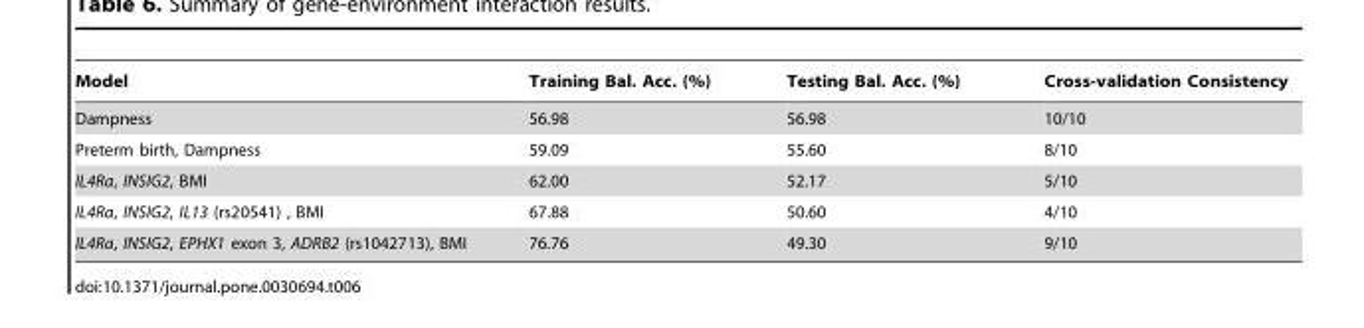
<table><thead><tr><td>Model</td><td>Training Bal. Acc. (%)</td><td>Testing Bal. Acc. (%)</td><td>Cross-validation Consistency</td></tr></thead><tbody><tr><td>Dampness</td><td>56.98</td><td>56.98</td><td>10/10</td></tr><tr><td>Preterm birth, Dampness</td><td>59.09</td><td>55.60</td><td>8/10</td></tr><tr><td>IL4Ra, INSIG2, BMI</td><td>62.00</td><td>52.17</td><td>5/10</td></tr><tr><td>IL4Ra, INSIG2, IL13 (rs20541) , BMI</td><td>67.88</td><td>50.60</td><td>4/10</td></tr><tr><td>IL4Ra, INSIG2, EPHX1 exon 3, ADRB2 (rs1042713), BMI</td><td>76.76</td><td>49.30</td><td>9/10</td></tr></tbody></table>